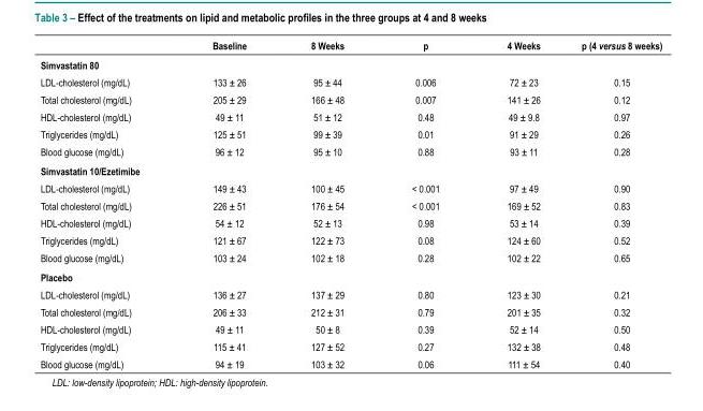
<table><thead><tr><td></td><td>Baseline</td><td>8 Weeks</td><td>p</td><td>4 Weeks</td><td>p (4 versus 8 weeks)</td></tr></thead><tbody><tr><td colspan="6">Simvastatin 80</td></tr><tr><td>LDL-cholesterol (mg/dL)</td><td>133 ± 26</td><td>95 ± 44</td><td>0.006</td><td>72 ± 23</td><td>0.15</td></tr><tr><td>Total cholesterol (mg/dL)</td><td>205 ± 29</td><td>166 ± 48</td><td>0.007</td><td>141 ± 26</td><td>0.12</td></tr><tr><td>HDL-cholesterol (mg/dL)</td><td>49 ± 11</td><td>51 ± 12</td><td>0.48</td><td>49 ± 9.8</td><td>0.97</td></tr><tr><td>Triglycerides (mg/dL)</td><td>125 ± 51</td><td>99 ± 39</td><td>0.01</td><td>91 ± 29</td><td>0.26</td></tr><tr><td>Blood glucose (mg/dL)</td><td>96 ± 12</td><td>95 ± 10</td><td>0.88</td><td>93 ± 11</td><td>0.28</td></tr><tr><td colspan="6">Simvastatin 10/Ezetimibe</td></tr><tr><td>LDL-cholesterol (mg/dL)</td><td>149 ± 43</td><td>100 ± 45</td><td>&lt; 0.001</td><td>97 ± 49</td><td>0.90</td></tr><tr><td>Total cholesterol (mg/dL)</td><td>226 ± 51</td><td>176 ± 54</td><td>&lt; 0.001</td><td>169 ± 52</td><td>0.83</td></tr><tr><td>HDL-cholesterol (mg/dL)</td><td>54 ± 12</td><td>52 ± 13</td><td>0.98</td><td>53 ± 14</td><td>0.39</td></tr><tr><td>Triglycerides (mg/dL)</td><td>121 ± 67</td><td>122 ± 73</td><td>0.08</td><td>124 ± 60</td><td>0.52</td></tr><tr><td>Blood glucose (mg/dL)</td><td>103 ± 24</td><td>102 ± 18</td><td>0.28</td><td>102 ± 22</td><td>0.65</td></tr><tr><td colspan="6">Placebo</td></tr><tr><td>LDL-cholesterol (mg/dL)</td><td>136 ± 27</td><td>137 ± 29</td><td>0.80</td><td>123 ± 30</td><td>0.21</td></tr><tr><td>Total cholesterol (mg/dL)</td><td>206 ± 33</td><td>212 ± 31</td><td>0.79</td><td>201 ± 35</td><td>0.32</td></tr><tr><td>HDL-cholesterol (mg/dL)</td><td>49 ± 11</td><td>50 ± 8</td><td>0.39</td><td>52 ± 14</td><td>0.50</td></tr><tr><td>Triglycerides (mg/dL)</td><td>115 ± 41</td><td>127 ± 52</td><td>0.27</td><td>132 ± 38</td><td>0.48</td></tr><tr><td>Blood glucose (mg/dL)</td><td>94 ± 19</td><td>103 ± 32</td><td>0.06</td><td>111 ± 54</td><td>0.40</td></tr></tbody></table>